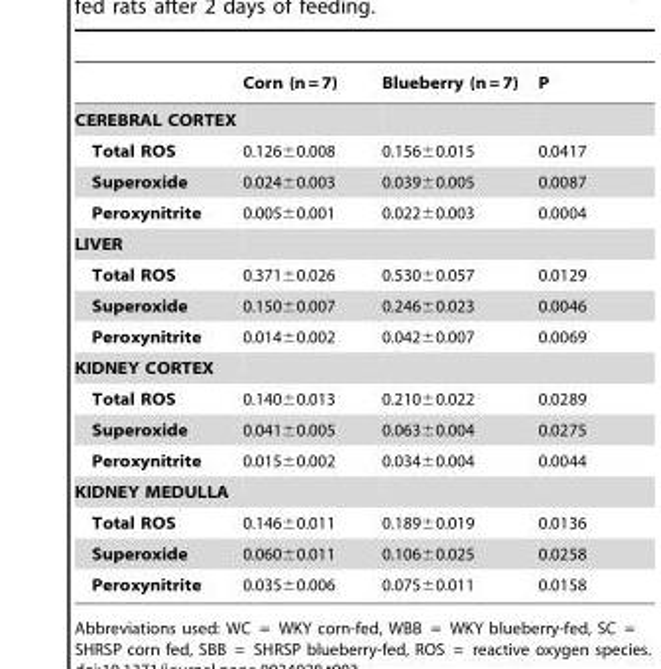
<table><thead><tr><td></td><td>Corn (n = 7)</td><td>Blueberry (n = 7)</td><td>P</td></tr></thead><tbody><tr><td colspan="4">CEREBRAL CORTEX</td></tr><tr><td>Total ROS</td><td>0.126±0.008</td><td>0.156±0.015</td><td>0.0417</td></tr><tr><td>Superoxide</td><td>0.024±0.003</td><td>0.039±0.005</td><td>0.0087</td></tr><tr><td>Peroxynitrite</td><td>0.005±0.001</td><td>0.022±0.003</td><td>0.0004</td></tr><tr><td colspan="4">LIVER</td></tr><tr><td>Total ROS</td><td>0.371±0.026</td><td>0.530±0.057</td><td>0.0129</td></tr><tr><td>Superoxide</td><td>0.150±0.007</td><td>0.246±0.023</td><td>0.0046</td></tr><tr><td>Peroxynitrite</td><td>0.014±0.002</td><td>0.042±0.007</td><td>0.0069</td></tr><tr><td colspan="4">KIDNEY CORTEX</td></tr><tr><td>Total ROS</td><td>0.140±0.013</td><td>0.210±0.022</td><td>0.0289</td></tr><tr><td>Superoxide</td><td>0.041±0.005</td><td>0.063±0.004</td><td>0.0275</td></tr><tr><td>Peroxynitrite</td><td>0.015±0.002</td><td>0.034±0.004</td><td>0.0044</td></tr><tr><td colspan="4">KIDNEY MEDULLA</td></tr><tr><td>Total ROS</td><td>0.146±0.011</td><td>0.189±0.019</td><td>0.0136</td></tr><tr><td>Superoxide</td><td>0.060±0.011</td><td>0.106±0.025</td><td>0.0258</td></tr><tr><td>Peroxynitrite</td><td>0.035±0.006</td><td>0.075±0.011</td><td>0.0158</td></tr></tbody></table>